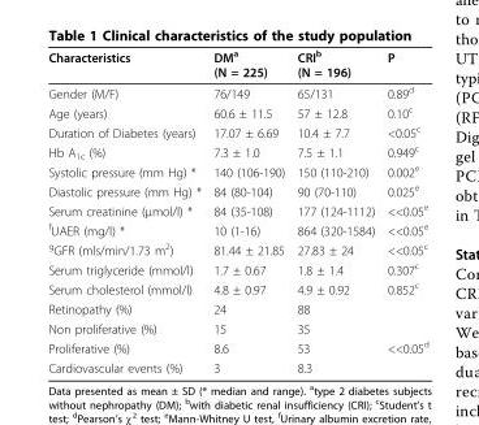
<table><thead><tr><td>Characteristics</td><td>DM<sup>a</sup> (N = 225)</td><td>CRI<sup>b</sup> (N = 196)</td><td>P</td></tr></thead><tbody><tr><td>Gender (M/F)</td><td>76/149</td><td>65/131</td><td>0.89<sup>d</sup></td></tr><tr><td>Age (years)</td><td>60.6 ± 11.5</td><td>57 ± 12.8</td><td>0.10<sup>c</sup></td></tr><tr><td>Duration of Diabetes (years)</td><td>17.07 ± 6.69</td><td>10.4 ± 7.7</td><td>&lt;0.05<sup>c</sup></td></tr><tr><td>Hb A<sub>1c</sub> (%)</td><td>7.3 ± 1.0</td><td>7.5 ± 1.1</td><td>0.949<sup>c</sup></td></tr><tr><td>Systolic pressure (mm Hg) *</td><td>140 (106-190)</td><td>150 (110-210)</td><td>0.002<sup>e</sup></td></tr><tr><td>Diastolic pressure (mm Hg) *</td><td>84 (80-104)</td><td>90 (70-110)</td><td>0.025<sup>e</sup></td></tr><tr><td>Serum creatinine (μmol/l) *</td><td>84 (35-108)</td><td>177 (124-1112)</td><td>&lt;&lt;0.05<sup>e</sup></td></tr><tr><td><sup>f</sup>UAER (mg/l) *</td><td>10 (1-16)</td><td>864 (320-1584)</td><td>&lt;&lt;0.05<sup>e</sup></td></tr><tr><td><sup>g</sup>GFR (mls/min/1.73 m<sup>2</sup>)</td><td>81.44 ± 21.85</td><td>27.83 ± 24</td><td>&lt;&lt;0.05<sup>c</sup></td></tr><tr><td>Serum triglyceride (mmol/l)</td><td>1.7 ± 0.67</td><td>1.8 ± 1.4</td><td>0.307<sup>c</sup></td></tr><tr><td>Serum cholesterol (mmol/l)</td><td>4.8 ± 0.97</td><td>4.9 ± 0.92</td><td>0.852<sup>c</sup></td></tr><tr><td>Retinopathy (%)</td><td>24</td><td>88</td><td></td></tr><tr><td>Non proliferative (%)</td><td>15</td><td>35</td><td></td></tr><tr><td>Proliferative (%)</td><td>8.6</td><td>53</td><td>&lt;&lt;0.05<sup>d</sup></td></tr><tr><td>Cardiovascular events (%)</td><td>3</td><td>8.3</td><td></td></tr></tbody></table>